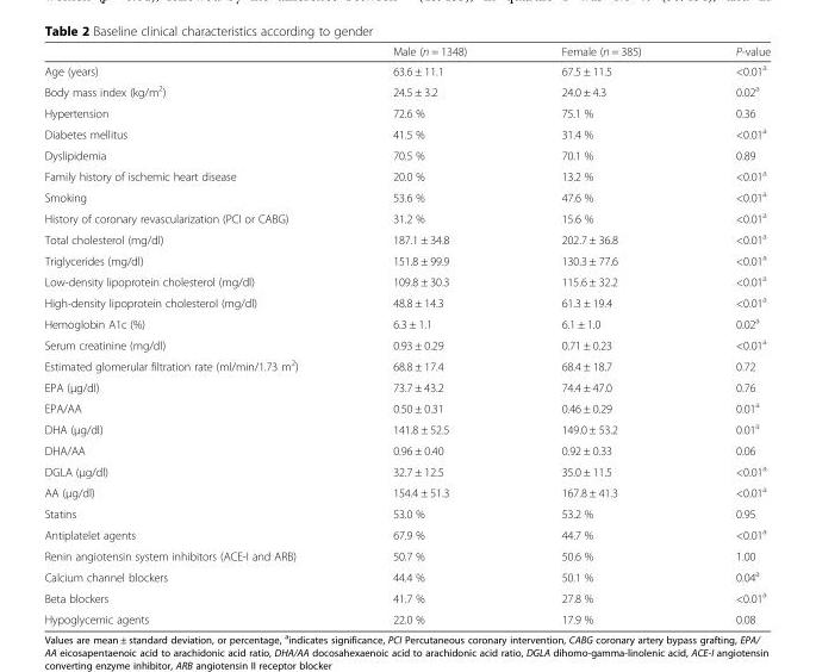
<table><thead><tr><td></td><td>Male (n = 1348)</td><td>Female (n = 385)</td><td>P-value</td></tr></thead><tbody><tr><td>Age (years)</td><td>63.6 ± 11.1</td><td>67.5 ± 11.5</td><td>&lt;0.01<sup>a</sup></td></tr><tr><td>Body mass index (kg/m<sup>2</sup>)</td><td>24.5 ± 3.2</td><td>24.0 ± 4.3</td><td>0.02<sup>a</sup></td></tr><tr><td>Hypertension</td><td>72.6 %</td><td>75.1 %</td><td>0.36</td></tr><tr><td>Diabetes mellitus</td><td>41.5 %</td><td>31.4 %</td><td>&lt;0.01<sup>a</sup></td></tr><tr><td>Dyslipidemia</td><td>70.5 %</td><td>70.1 %</td><td>0.89</td></tr><tr><td>Family history of ischemic heart disease</td><td>20.0 %</td><td>13.2 %</td><td>&lt;0.01<sup>a</sup></td></tr><tr><td>Smoking</td><td>53.6 %</td><td>47.6 %</td><td>&lt;0.01<sup>a</sup></td></tr><tr><td>History of coronary revascularization (PCI or CABG)</td><td>31.2 %</td><td>15.6 %</td><td>&lt;0.01<sup>a</sup></td></tr><tr><td>Total cholesterol (mg/dl)</td><td>187.1 ± 34.8</td><td>202.7 ± 36.8</td><td>&lt;0.01<sup>a</sup></td></tr><tr><td>Triglycerides (mg/dl)</td><td>151.8 ± 99.9</td><td>130.3 ± 77.6</td><td>&lt;0.01<sup>a</sup></td></tr><tr><td>Low-density lipoprotein cholesterol (mg/dl)</td><td>109.8 ± 30.3</td><td>115.6 ± 32.2</td><td>&lt;0.01<sup>a</sup></td></tr><tr><td>High-density lipoprotein cholesterol (mg/dl)</td><td>48.8 ± 14.3</td><td>61.3 ± 19.4</td><td>&lt;0.01<sup>a</sup></td></tr><tr><td>Hemoglobin A1c (%)</td><td>6.3 ± 1.1</td><td>6.1 ± 1.0</td><td>0.02<sup>a</sup></td></tr><tr><td>Serum creatinine (mg/dl)</td><td>0.93 ± 0.29</td><td>0.71 ± 0.23</td><td>&lt;0.01<sup>a</sup></td></tr><tr><td>Estimated glomerular filtration rate (ml/min/1.73 m<sup>2</sup>)</td><td>68.8 ± 17.4</td><td>68.4 ± 18.7</td><td>0.72</td></tr><tr><td>EPA (μg/dl)</td><td>73.7 ± 43.2</td><td>74.4 ± 47.0</td><td>0.76</td></tr><tr><td>EPA/AA</td><td>0.50 ± 0.31</td><td>0.46 ± 0.29</td><td>0.01<sup>a</sup></td></tr><tr><td>DHA (μg/dl)</td><td>141.8 ± 52.5</td><td>149.0 ± 53.2</td><td>0.01<sup>a</sup></td></tr><tr><td>DHA/AA</td><td>0.96 ± 0.40</td><td>0.92 ± 0.33</td><td>0.06</td></tr><tr><td>DGLA (μg/dl)</td><td>32.7 ± 12.5</td><td>35.0 ± 11.5</td><td>&lt;0.01<sup>a</sup></td></tr><tr><td>AA (μg/dl)</td><td>154.4 ± 51.3</td><td>167.8 ± 41.3</td><td>&lt;0.01<sup>a</sup></td></tr><tr><td>Statins</td><td>53.0 %</td><td>53.2 %</td><td>0.95</td></tr><tr><td>Antiplatelet agents</td><td>67.9 %</td><td>44.7 %</td><td>&lt;0.01<sup>a</sup></td></tr><tr><td>Renin angiotensin system inhibitors (ACE-I and ARB)</td><td>50.7 %</td><td>50.6 %</td><td>1.00</td></tr><tr><td>Calcium channel blockers</td><td>44.4 %</td><td>50.1 %</td><td>0.04<sup>a</sup></td></tr><tr><td>Beta blockers</td><td>41.7 %</td><td>27.8 %</td><td>&lt;0.01<sup>a</sup></td></tr><tr><td>Hypoglycemic agents</td><td>22.0 %</td><td>17.9 %</td><td>0.08</td></tr></tbody></table>